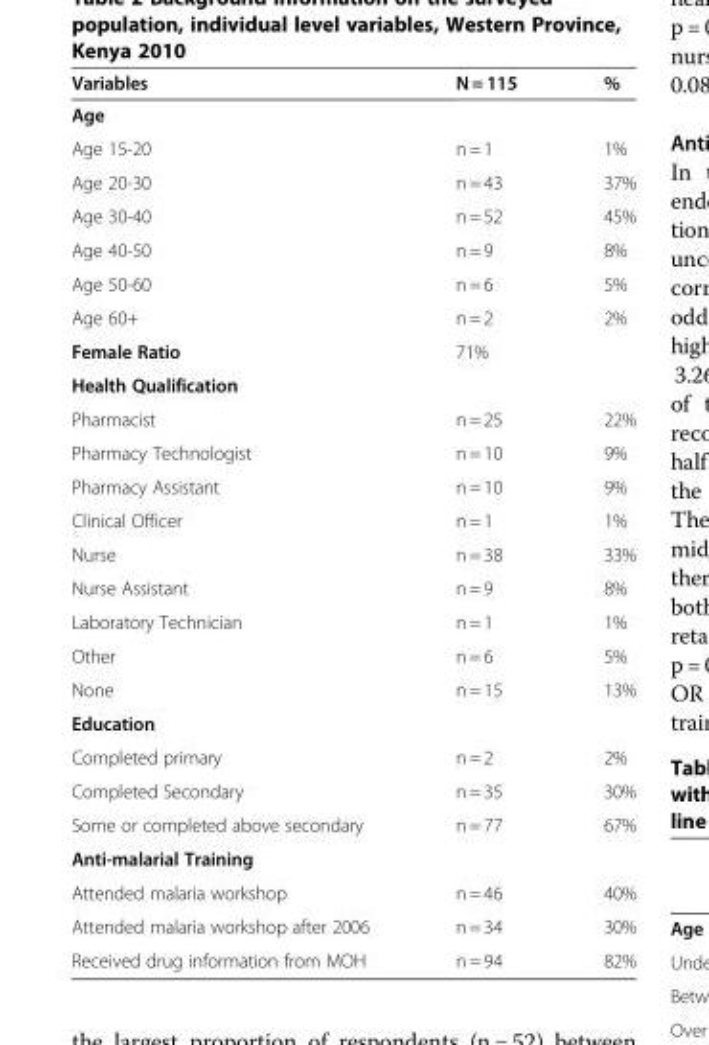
<table><thead><tr><td>Variables</td><td>N = 115</td><td>%</td></tr></thead><tbody><tr><td colspan="3">Age</td></tr><tr><td>Age 15-20</td><td>n = 1</td><td>1%</td></tr><tr><td>Age 20-30</td><td>n = 43</td><td>37%</td></tr><tr><td>Age 30-40</td><td>n = 52</td><td>45%</td></tr><tr><td>Age 40-50</td><td>n = 9</td><td>8%</td></tr><tr><td>Age 50-60</td><td>n = 6</td><td>5%</td></tr><tr><td>Age 60+</td><td>n = 2</td><td>2%</td></tr><tr><td>Female Ratio</td><td>71%</td><td></td></tr><tr><td colspan="3">Health Qualification</td></tr><tr><td>Pharmacist</td><td>n = 25</td><td>22%</td></tr><tr><td>Pharmacy Technologist</td><td>n = 10</td><td>9%</td></tr><tr><td>Pharmacy Assistant</td><td>n = 10</td><td>9%</td></tr><tr><td>Clinical Officer</td><td>n = 1</td><td>1%</td></tr><tr><td>Nurse</td><td>n = 38</td><td>33%</td></tr><tr><td>Nurse Assistant</td><td>n = 9</td><td>8%</td></tr><tr><td>Laboratory Technician</td><td>n = 1</td><td>1%</td></tr><tr><td>Other</td><td>n = 6</td><td>5%</td></tr><tr><td>None</td><td>n = 15</td><td>13%</td></tr><tr><td colspan="3">Education</td></tr><tr><td>Completed primary</td><td>n = 2</td><td>2%</td></tr><tr><td>Completed Secondary</td><td>n = 35</td><td>30%</td></tr><tr><td>Some or completed above secondary</td><td>n = 77</td><td>67%</td></tr><tr><td colspan="3">Anti-malarial Training</td></tr><tr><td>Attended malaria workshop</td><td>n = 46</td><td>40%</td></tr><tr><td>Attended malaria workshop after 2006</td><td>n = 34</td><td>30%</td></tr><tr><td>Received drug information from MOH</td><td>n = 94</td><td>82%</td></tr></tbody></table>